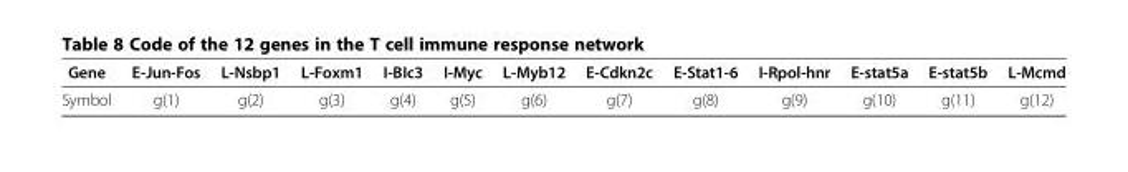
<table><thead><tr><td>Gene</td><td>E-Jun-Fos</td><td>L-Nsbp1</td><td>L-Foxm1</td><td>I-BIc3</td><td>I-Myc</td><td>L-Myb12</td><td>E-Cdkn2c</td><td>E-Stat1-6</td><td>I-Rpol-hnr</td><td>E-stat5a</td><td>E-stat5b</td><td>L-Mcmd</td></tr></thead><tbody><tr><td>Symbol</td><td>g(1)</td><td>g(2)</td><td>g(3)</td><td>g(4)</td><td>g(5)</td><td>g(6)</td><td>g(7)</td><td>g(8)</td><td>g(9)</td><td>g(10)</td><td>g(11)</td><td>g(12)</td></tr></tbody></table>